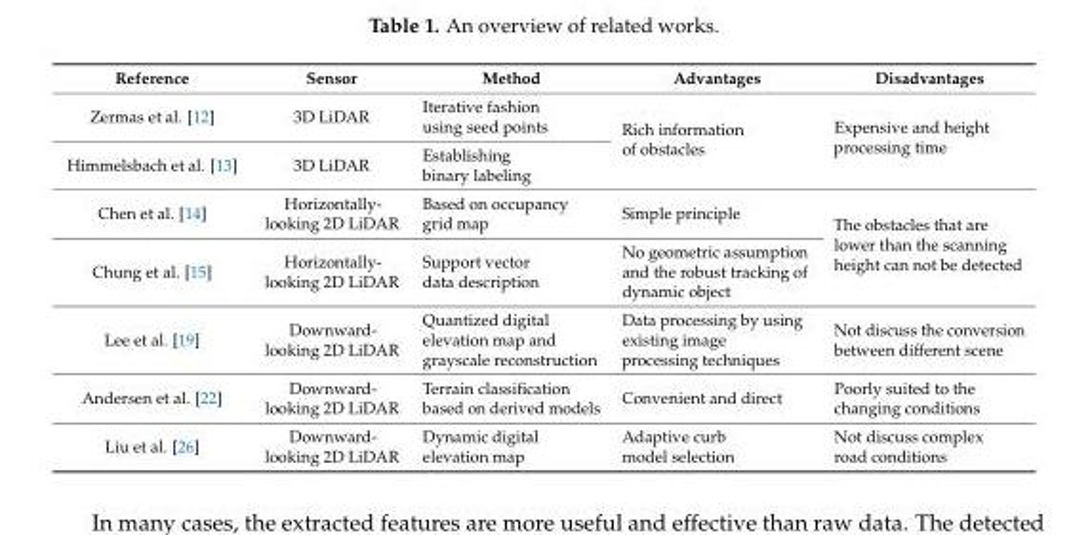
<table><thead><tr><td>Reference</td><td>Sensor</td><td>Method</td><td>Advantages</td><td>Disadvantages</td></tr></thead><tbody><tr><td>Zermas et al. [12]</td><td>3D LiDAR</td><td>Iterative fashion using seed points</td><td rowspan="2">Rich information of obstacles</td><td rowspan="2">Expensive and height processing time</td></tr><tr><td>Himmelsbach et al. [13]</td><td>3D LiDAR</td><td>Establishing binary labeling</td></tr><tr><td>Chen et al. [14]</td><td>Horizontally- looking 2D LiDAR</td><td>Based on occupancy grid map</td><td>Simple principle</td><td rowspan="2">The obstacles that are lower than the scanning height can not be detected</td></tr><tr><td>Chung et al. [15]</td><td>Horizontally- looking 2D LiDAR</td><td>Support vector data description</td><td>No geometric assumption and the robust tracking of dynamic object</td></tr><tr><td>Lee et al. [19]</td><td>Downward- looking 2D LiDAR</td><td>Quantized digital elevation map and grayscale reconstruction</td><td>Data processing by using existing image processing techniques</td><td>Not discuss the conversion between different scene</td></tr><tr><td>Andersen et al. [22]</td><td>Downward- looking 2D LiDAR</td><td>Terrain classification based on derived models</td><td>Convenient and direct</td><td>Poorly suited to the changing conditions</td></tr><tr><td>Liu et al. [26]</td><td>Downward- looking 2D LiDAR</td><td>Dynamic digital elevation map</td><td>Adaptive curb model selection</td><td>Not discuss complex road conditions</td></tr></tbody></table>